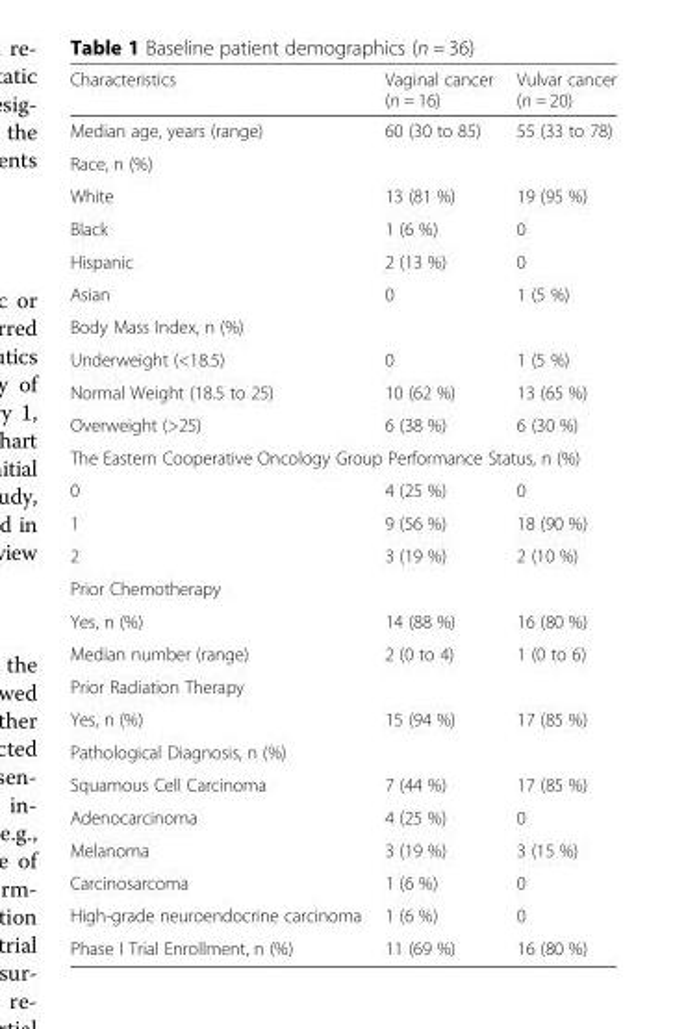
<table><thead><tr><td>Characteristics</td><td>Vaginal cancer (n = 16)</td><td>Vulvar cancer (n = 20)</td></tr></thead><tbody><tr><td>Median age, years (range)</td><td>60 (30 to 85)</td><td>55 (33 to 78)</td></tr><tr><td colspan="3">Race, n (%)</td></tr><tr><td>White</td><td>13 (81 %)</td><td>19 (95 %)</td></tr><tr><td>Black</td><td>1 (6 %)</td><td>0</td></tr><tr><td>Hispanic</td><td>2 (13 %)</td><td>0</td></tr><tr><td>Asian</td><td>0</td><td>1 (5 %)</td></tr><tr><td colspan="3">Body Mass Index, n (%)</td></tr><tr><td>Underweight (&lt;18.5)</td><td>0</td><td>1 (5 %)</td></tr><tr><td>Normal Weight (18.5 to 25)</td><td>10 (62 %)</td><td>13 (65 %)</td></tr><tr><td>Overweight (&gt;25)</td><td>6 (38 %)</td><td>6 (30 %)</td></tr><tr><td colspan="3">The Eastern Cooperative Oncology Group Performance Status, n (%)</td></tr><tr><td>0</td><td>4 (25 %)</td><td>0</td></tr><tr><td>1</td><td>9 (56 %)</td><td>18 (90 %)</td></tr><tr><td>2</td><td>3 (19 %)</td><td>2 (10 %)</td></tr><tr><td colspan="3">Prior Chemotherapy</td></tr><tr><td>Yes, n (%)</td><td>14 (88 %)</td><td>16 (80 %)</td></tr><tr><td>Median number (range)</td><td>2 (0 to 4)</td><td>1 (0 to 6)</td></tr><tr><td colspan="3">Prior Radiation Therapy</td></tr><tr><td>Yes, n (%)</td><td>15 (94 %)</td><td>17 (85 %)</td></tr><tr><td colspan="3">Pathological Diagnosis, n (%)</td></tr><tr><td>Squamous Cell Carcinoma</td><td>7 (44 %)</td><td>17 (85 %)</td></tr><tr><td>Adenocarcinoma</td><td>4 (25 %)</td><td>0</td></tr><tr><td>Melanoma</td><td>3 (19 %)</td><td>3 (15 %)</td></tr><tr><td>Carcinosarcoma</td><td>1 (6 %)</td><td>0</td></tr><tr><td>High-grade neuroendocrine carcinoma</td><td>1 (6 %)</td><td>0</td></tr><tr><td>Phase I Trial Enrollment, n (%)</td><td>11 (69 %)</td><td>16 (80 %)</td></tr></tbody></table>